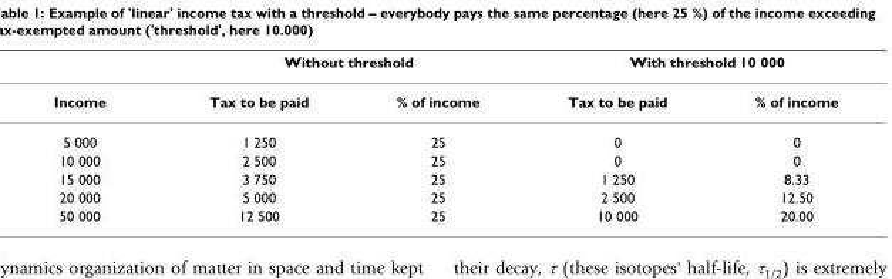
<table><thead><tr><td rowspan="2">Income</td><td colspan="2">Without threshold</td><td colspan="2">With threshold 10 000</td></tr><tr><td>Tax to be paid</td><td>% of income</td><td>Tax to be paid</td><td>% of income</td></tr></thead><tbody><tr><td>5 000</td><td>1 250</td><td>25</td><td>0</td><td>0</td></tr><tr><td>10 000</td><td>2 500</td><td>25</td><td>0</td><td>0</td></tr><tr><td>15 000</td><td>3 750</td><td>25</td><td>1 250</td><td>8.33</td></tr><tr><td>20 000</td><td>5 000</td><td>25</td><td>2 500</td><td>12.50</td></tr><tr><td>50 000</td><td>12 500</td><td>25</td><td>10 000</td><td>20.00</td></tr></tbody></table>